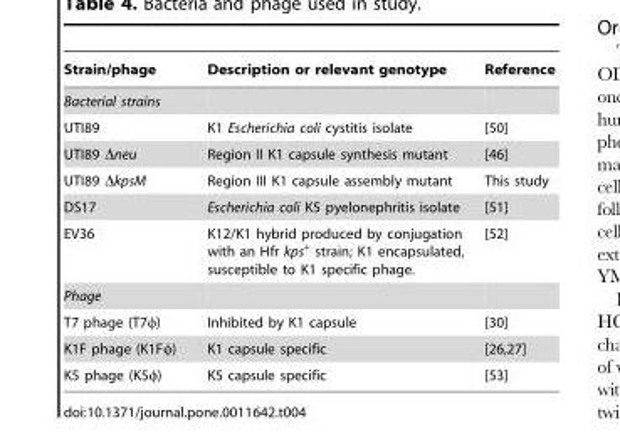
<table><thead><tr><td>Strain/phage</td><td>Description or relevant genotype</td><td>Reference</td></tr></thead><tbody><tr><td colspan="3">Bacterial strains</td></tr><tr><td>UTI89</td><td>K1 Escherichia coli cystitis isolate</td><td>[50]</td></tr><tr><td>UTI89 Δneu</td><td>Region II K1 capsule synthesis mutant</td><td>[46]</td></tr><tr><td>UTI89 ΔkpsM</td><td>Region III K1 capsule assembly mutant</td><td>This study</td></tr><tr><td>DS17</td><td>Escherichia coli K5 pyelonephritis isolate</td><td>[51]</td></tr><tr><td>EV36</td><td>K12/K1 hybrid produced by conjugation with an Hfr kps<sup>+</sup> strain; K1 encapsulated, susceptible to K1 specific phage.</td><td>[52]</td></tr><tr><td colspan="3">Phage</td></tr><tr><td>T7 phage (T7φ)</td><td>Inhibited by K1 capsule</td><td>[30]</td></tr><tr><td>K1F phage (K1Fφ)</td><td>K1 capsule specific</td><td>[26,27]</td></tr><tr><td>K5 phage (K5φ)</td><td>K5 capsule specific</td><td>[53]</td></tr></tbody></table>